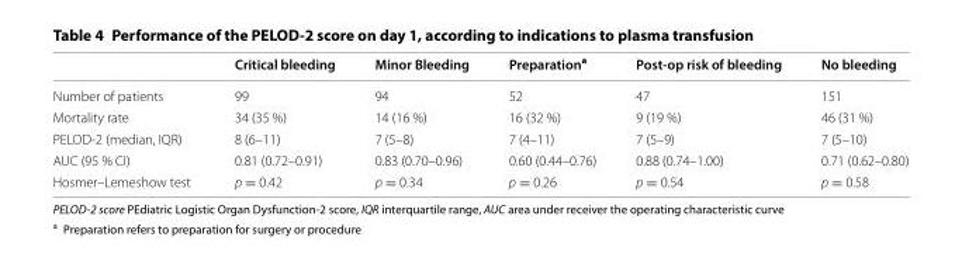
<table><thead><tr><td></td><td>Critical bleeding</td><td>Minor Bleeding</td><td>Preparation<sup>a</sup></td><td>Post‑op risk of bleeding</td><td>No bleeding</td></tr></thead><tbody><tr><td>Number of patients</td><td>99</td><td>94</td><td>52</td><td>47</td><td>151</td></tr><tr><td>Mortality rate</td><td>34 (35 %)</td><td>14 (16 %)</td><td>16 (32 %)</td><td>9 (19 %)</td><td>46 (31 %)</td></tr><tr><td>PELOD-2 (median, IQR)</td><td>8 (6–11)</td><td>7 (5–8)</td><td>7 (4–11)</td><td>7 (5–9)</td><td>7 (5–10)</td></tr><tr><td>AUC (95 % CI)</td><td>0.81 (0.72–0.91)</td><td>0.83 (0.70–0.96)</td><td>0.60 (0.44–0.76)</td><td>0.88 (0.74–1.00)</td><td>0.71 (0.62–0.80)</td></tr><tr><td>Hosmer–Lemeshow test</td><td>p = 0.42</td><td>p = 0.34</td><td>p = 0.26</td><td>p = 0.54</td><td>p = 0.58</td></tr></tbody></table>